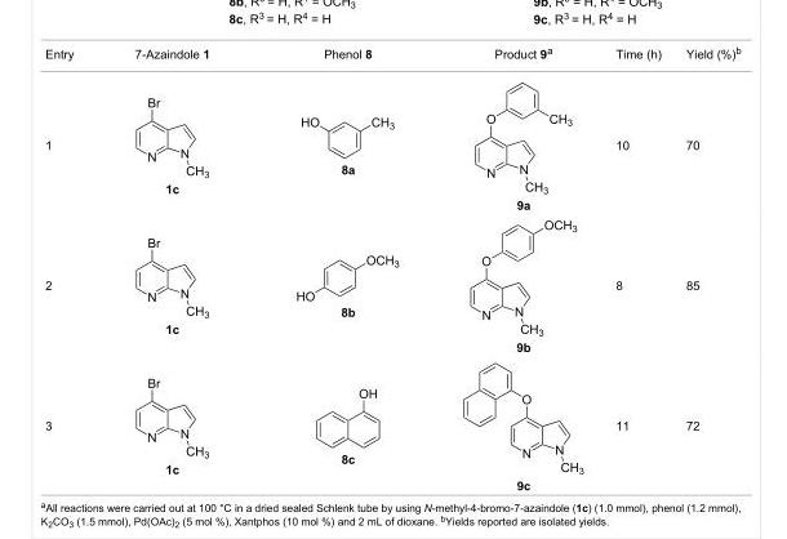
<table><tbody><tr><td>Entry</td><td>7-Azaindole 1</td><td>Phenol 8</td><td>Product 9<sup>a</sup></td><td>Time (h)</td><td>Yield (%)<sup>b</sup></td></tr><tr><td>1</td><td>1c</td><td>8a</td><td>9a</td><td>10</td><td>70</td></tr><tr><td>2</td><td>1c</td><td>8b</td><td>9b</td><td>8</td><td>85</td></tr><tr><td>3</td><td>1c</td><td>8c</td><td>9c</td><td>11</td><td>72</td></tr></tbody></table>